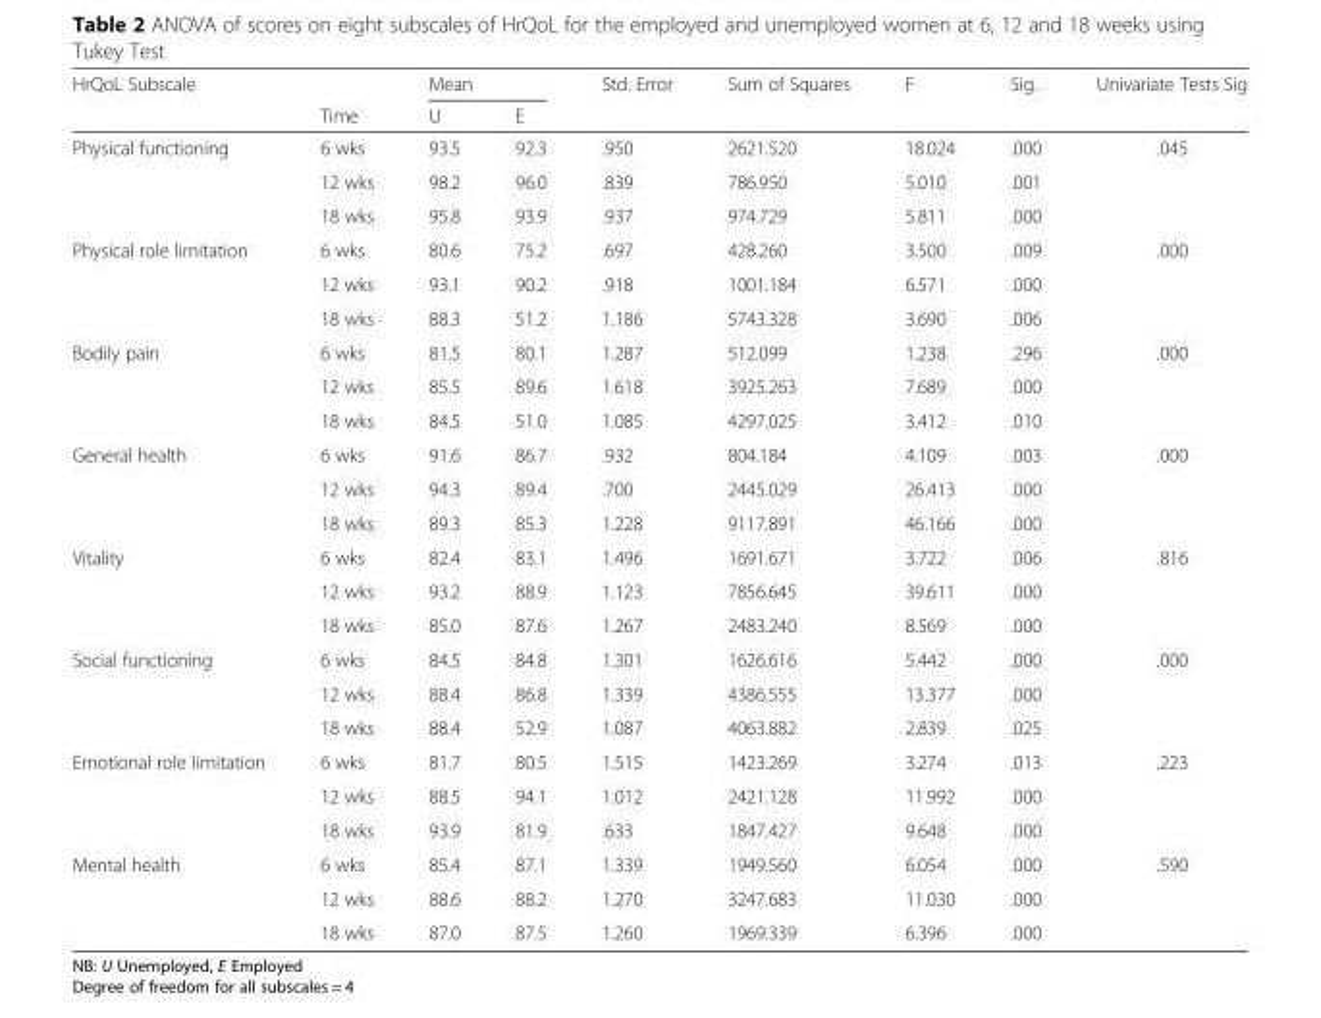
<table><thead><tr><td rowspan="2">HrQoL Subscale</td><td rowspan="2">Time</td><td colspan="2">Mean</td><td rowspan="2">Std. Error</td><td rowspan="2">Sum of Squares</td><td rowspan="2">F</td><td rowspan="2">Sig.</td><td rowspan="2">Univariate Tests Sig</td></tr><tr><td>U</td><td>E</td></tr></thead><tbody><tr><td rowspan="3">Physical functioning</td><td>6 wks</td><td>93.5</td><td>92.3</td><td>.950</td><td>2621.520</td><td>18.024</td><td>.000</td><td>.045</td></tr><tr><td>12 wks</td><td>98.2</td><td>96.0</td><td>.839</td><td>786.950</td><td>5.010</td><td>.001</td><td></td></tr><tr><td>18 wks</td><td>95.8</td><td>93.9</td><td>.937</td><td>974.729</td><td>5.811</td><td>.000</td><td></td></tr><tr><td rowspan="3">Physical role limitation</td><td>6 wks</td><td>80.6</td><td>75.2</td><td>.697</td><td>428.260</td><td>3.500</td><td>.009</td><td>.000</td></tr><tr><td>12 wks</td><td>93.1</td><td>90.2</td><td>.918</td><td>1001.184</td><td>6.571</td><td>.000</td><td></td></tr><tr><td>18 wks</td><td>88.3</td><td>51.2</td><td>1.186</td><td>5743.328</td><td>3.690</td><td>.006</td><td></td></tr><tr><td rowspan="3">Bodily pain</td><td>6 wks</td><td>81.5</td><td>80.1</td><td>1.287</td><td>512.099</td><td>1.238</td><td>.296</td><td>.000</td></tr><tr><td>12 wks</td><td>85.5</td><td>89.6</td><td>1.618</td><td>3925.263</td><td>7.689</td><td>.000</td><td></td></tr><tr><td>18 wks</td><td>84.5</td><td>51.0</td><td>1.085</td><td>4297.025</td><td>3.412</td><td>.010</td><td></td></tr><tr><td rowspan="3">General health</td><td>6 wks</td><td>91.6</td><td>86.7</td><td>.932</td><td>804.184</td><td>4.109</td><td>.003</td><td>.000</td></tr><tr><td>12 wks</td><td>94.3</td><td>89.4</td><td>.700</td><td>2445.029</td><td>26.413</td><td>.000</td><td></td></tr><tr><td>18 wks</td><td>89.3</td><td>85.3</td><td>1.228</td><td>9117.891</td><td>46.166</td><td>.000</td><td></td></tr><tr><td rowspan="3">Vitality</td><td>6 wks</td><td>82.4</td><td>83.1</td><td>1.496</td><td>1691.671</td><td>3.722</td><td>.006</td><td>.816</td></tr><tr><td>12 wks</td><td>93.2</td><td>88.9</td><td>1.123</td><td>7856.645</td><td>39.611</td><td>.000</td><td></td></tr><tr><td>18 wks</td><td>85.0</td><td>87.6</td><td>1.267</td><td>2483.240</td><td>8.569</td><td>.000</td><td></td></tr><tr><td rowspan="3">Social functioning</td><td>6 wks</td><td>84.5</td><td>84.8</td><td>1.301</td><td>1626.616</td><td>5.442</td><td>.000</td><td>.000</td></tr><tr><td>12 wks</td><td>88.4</td><td>86.8</td><td>1.339</td><td>4386.555</td><td>13.377</td><td>.000</td><td></td></tr><tr><td>18 wks</td><td>88.4</td><td>52.9</td><td>1.087</td><td>4063.882</td><td>2.839</td><td>.025</td><td></td></tr><tr><td rowspan="3">Emotional role limitation</td><td>6 wks</td><td>81.7</td><td>80.5</td><td>1.515</td><td>1423.269</td><td>3.274</td><td>.013</td><td>.223</td></tr><tr><td>12 wks</td><td>88.5</td><td>94.1</td><td>1.012</td><td>2421.128</td><td>11.992</td><td>.000</td><td></td></tr><tr><td>18 wks</td><td>93.9</td><td>81.9</td><td>.633</td><td>1847.427</td><td>9.648</td><td>.000</td><td></td></tr><tr><td rowspan="3">Mental health</td><td>6 wks</td><td>85.4</td><td>87.1</td><td>1.339</td><td>1949.560</td><td>6.054</td><td>.000</td><td>.590</td></tr><tr><td>12 wks</td><td>88.6</td><td>88.2</td><td>1.270</td><td>3247.683</td><td>11.030</td><td>.000</td><td></td></tr><tr><td>18 wks</td><td>87.0</td><td>87.5</td><td>1.260</td><td>1969.339</td><td>6.396</td><td>.000</td><td></td></tr></tbody></table>